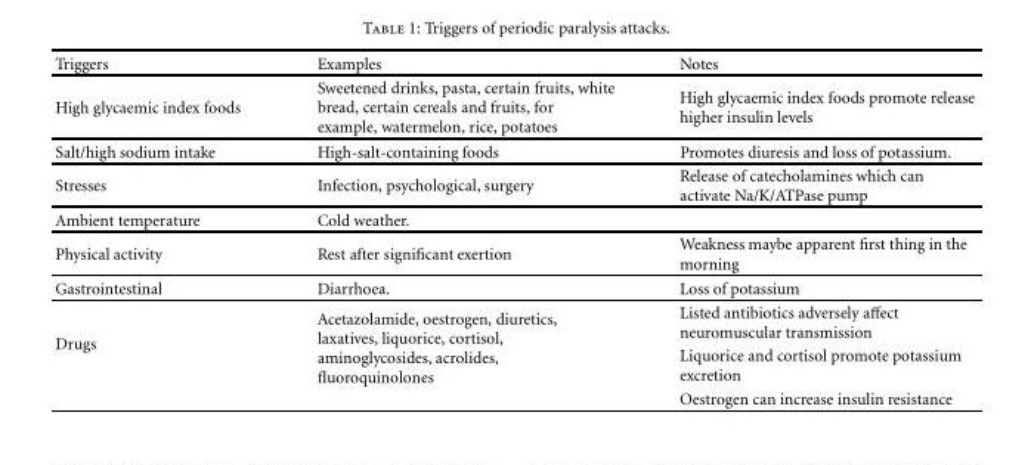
<table><thead><tr><td>Triggers</td><td>Examples</td><td>Notes</td></tr></thead><tbody><tr><td>High glycaemic index foods</td><td>Sweetened drinks, pasta, certain fruits, white bread, certain cereals and fruits, for example, watermelon, rice, potatoes</td><td>High glycaemic index foods promote release higher insulin levels</td></tr><tr><td>Salt/high sodium intake</td><td>High-salt-containing foods</td><td>Promotes diuresis and loss of potassium.</td></tr><tr><td>Stresses</td><td>Infection, psychological, surgery</td><td>Release of catecholamines which can activate Na/K/ATPase pump</td></tr><tr><td>Ambient temperature</td><td>Cold weather.</td><td></td></tr><tr><td>Physical activity</td><td>Rest after significant exertion</td><td>Weakness maybe apparent first thing in the morning</td></tr><tr><td>Gastrointestinal</td><td>Diarrhoea.</td><td>Loss of potassium</td></tr><tr><td rowspan="3">Drugs</td><td rowspan="3">Acetazolamide, oestrogen, diuretics, laxatives, liquorice, cortisol, aminoglycosides, acrolides, fluoroquinolones</td><td>Listed antibiotics adversely affect neuromuscular transmission</td></tr><tr><td>Liquorice and cortisol promote potassium excretion</td></tr><tr><td>Oestrogen can increase insulin resistance</td></tr></tbody></table>